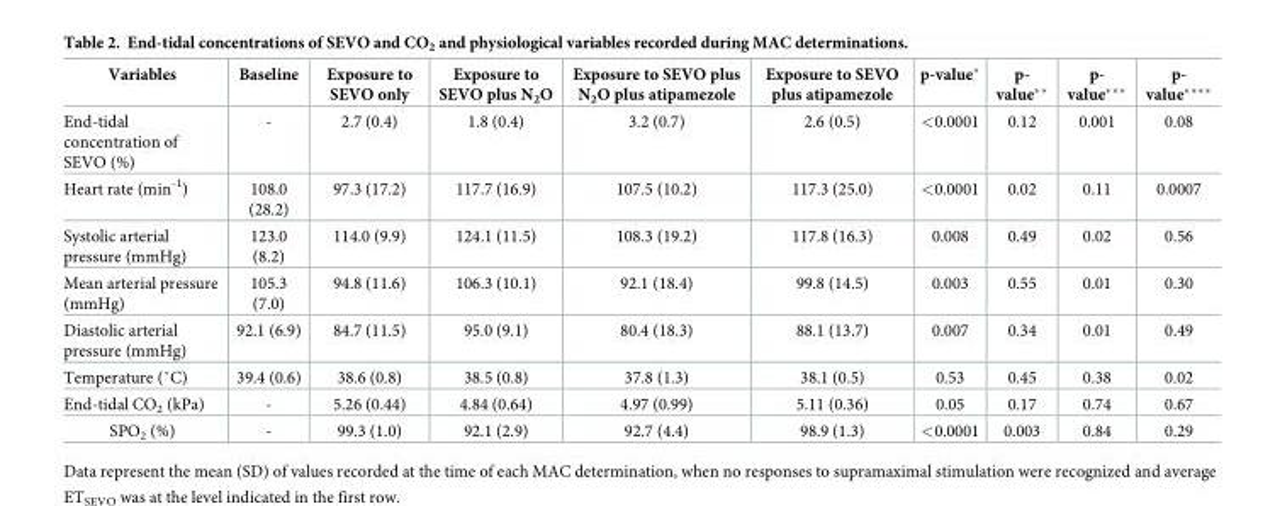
<table><thead><tr><td>Variables</td><td>Baseline</td><td>Exposure to SEVO only</td><td>Exposure to SEVO plus N<sub>2</sub>O</td><td>Exposure to SEVO plus N<sub>2</sub>O plus atipamezole</td><td>Exposure to SEVO plus atipamezole</td><td>p-value*</td><td>p- value**</td><td>p- value***</td><td>p- value****</td></tr></thead><tbody><tr><td>End-tidal concentration of SEVO (%)</td><td>-</td><td>2.7 (0.4)</td><td>1.8 (0.4)</td><td>3.2 (0.7)</td><td>2.6 (0.5)</td><td>&lt;0.0001</td><td>0.12</td><td>0.001</td><td>0.08</td></tr><tr><td>Heart rate (min<sup>-1</sup>)</td><td>108.0 (28.2)</td><td>97.3 (17.2)</td><td>117.7 (16.9)</td><td>107.5 (10.2)</td><td>117.3 (25.0)</td><td>&lt;0.0001</td><td>0.02</td><td>0.11</td><td>0.0007</td></tr><tr><td>Systolic arterial pressure (mmHg)</td><td>123.0 (8.2)</td><td>114.0 (9.9)</td><td>124.1 (11.5)</td><td>108.3 (19.2)</td><td>117.8 (16.3)</td><td>0.008</td><td>0.49</td><td>0.02</td><td>0.56</td></tr><tr><td>Mean arterial pressure (mmHg)</td><td>105.3 (7.0)</td><td>94.8 (11.6)</td><td>106.3 (10.1)</td><td>92.1 (18.4)</td><td>99.8 (14.5)</td><td>0.003</td><td>0.55</td><td>0.01</td><td>0.30</td></tr><tr><td>Diastolic arterial pressure (mmHg)</td><td>92.1 (6.9)</td><td>84.7 (11.5)</td><td>95.0 (9.1)</td><td>80.4 (18.3)</td><td>88.1 (13.7)</td><td>0.007</td><td>0.34</td><td>0.01</td><td>0.49</td></tr><tr><td>Temperature (˚C)</td><td>39.4 (0.6)</td><td>38.6 (0.8)</td><td>38.5 (0.8)</td><td>37.8 (1.3)</td><td>38.1 (0.5)</td><td>0.53</td><td>0.45</td><td>0.38</td><td>0.02</td></tr><tr><td>End-tidal CO<sub>2</sub> (kPa)</td><td>-</td><td>5.26 (0.44)</td><td>4.84 (0.64)</td><td>4.97 (0.99)</td><td>5.11 (0.36)</td><td>0.05</td><td>0.17</td><td>0.74</td><td>0.67</td></tr><tr><td>SPO<sub>2</sub> (%)</td><td>-</td><td>99.3 (1.0)</td><td>92.1 (2.9)</td><td>92.7 (4.4)</td><td>98.9 (1.3)</td><td>&lt;0.0001</td><td>0.003</td><td>0.84</td><td>0.29</td></tr></tbody></table>